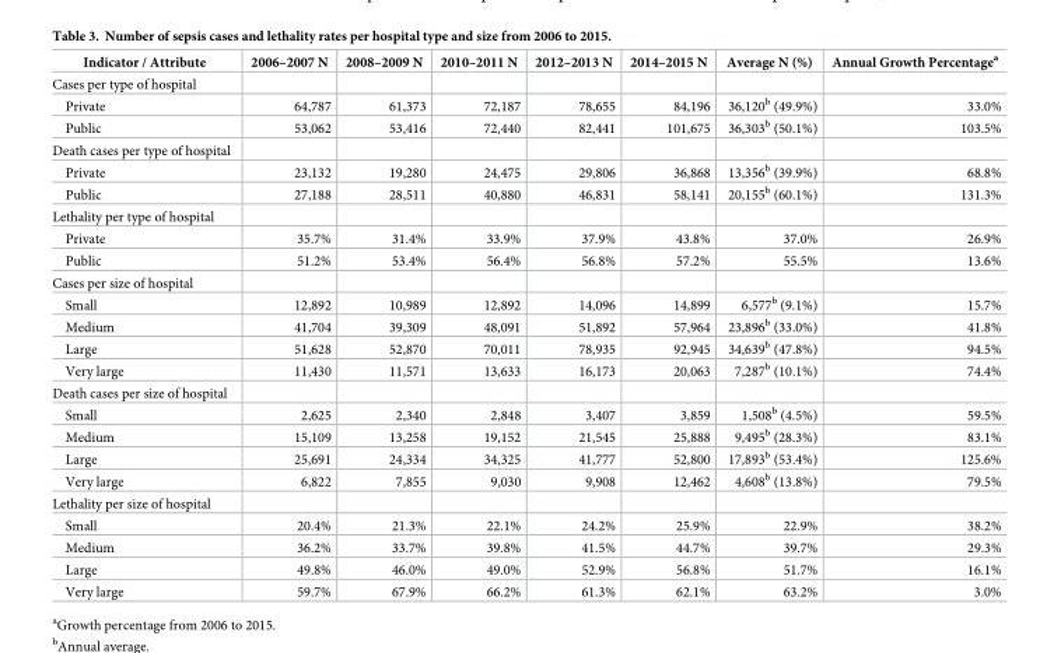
<table><thead><tr><td>Indicator / Attribute</td><td>2006–2007 N</td><td>2008–2009 N</td><td>2010–2011 N</td><td>2012–2013 N</td><td>2014–2015 N</td><td>Average N (%)</td><td>Annual Growth Percentage<sup>a</sup></td></tr></thead><tbody><tr><td colspan="8">Cases per type of hospital</td></tr><tr><td>Private</td><td>64,787</td><td>61,373</td><td>72,187</td><td>78,655</td><td>84,196</td><td>36,120<sup>b</sup> (49.9%)</td><td>33.0%</td></tr><tr><td>Public</td><td>53,062</td><td>53,416</td><td>72,440</td><td>82,441</td><td>101,675</td><td>36,303<sup>b</sup> (50.1%)</td><td>103.5%</td></tr><tr><td colspan="8">Death cases per type of hospital</td></tr><tr><td>Private</td><td>23,132</td><td>19,280</td><td>24,475</td><td>29,806</td><td>36,868</td><td>13,356<sup>b</sup> (39.9%)</td><td>68.8%</td></tr><tr><td>Public</td><td>27,188</td><td>28,511</td><td>40,880</td><td>46,831</td><td>58,141</td><td>20,155<sup>b</sup> (60.1%)</td><td>131.3%</td></tr><tr><td colspan="8">Lethality per type of hospital</td></tr><tr><td>Private</td><td>35.7%</td><td>31.4%</td><td>33.9%</td><td>37.9%</td><td>43.8%</td><td>37.0%</td><td>26.9%</td></tr><tr><td>Public</td><td>51.2%</td><td>53.4%</td><td>56.4%</td><td>56.8%</td><td>57.2%</td><td>55.5%</td><td>13.6%</td></tr><tr><td colspan="8">Cases per size of hospital</td></tr><tr><td>Small</td><td>12,892</td><td>10,989</td><td>12,892</td><td>14,096</td><td>14,899</td><td>6,577<sup>b</sup> (9.1%)</td><td>15.7%</td></tr><tr><td>Medium</td><td>41,704</td><td>39,309</td><td>48,091</td><td>51,892</td><td>57,964</td><td>23,896<sup>b</sup> (33.0%)</td><td>41.8%</td></tr><tr><td>Large</td><td>51,628</td><td>52,870</td><td>70,011</td><td>78,935</td><td>92,945</td><td>34,639<sup>b</sup> (47.8%)</td><td>94.5%</td></tr><tr><td>Very large</td><td>11,430</td><td>11,571</td><td>13,633</td><td>16,173</td><td>20,063</td><td>7,287<sup>b</sup> (10.1%)</td><td>74.4%</td></tr><tr><td colspan="8">Death cases per size of hospital</td></tr><tr><td>Small</td><td>2,625</td><td>2,340</td><td>2,848</td><td>3,407</td><td>3,859</td><td>1,508<sup>b</sup> (4.5%)</td><td>59.5%</td></tr><tr><td>Medium</td><td>15,109</td><td>13,258</td><td>19,152</td><td>21,545</td><td>25,888</td><td>9,495<sup>b</sup> (28.3%)</td><td>83.1%</td></tr><tr><td>Large</td><td>25,691</td><td>24,334</td><td>34,325</td><td>41,777</td><td>52,800</td><td>17,893<sup>b</sup> (53.4%)</td><td>125.6%</td></tr><tr><td>Very large</td><td>6,822</td><td>7,855</td><td>9,030</td><td>9,908</td><td>12,462</td><td>4,608<sup>b</sup> (13.8%)</td><td>79.5%</td></tr><tr><td colspan="8">Lethality per size of hospital</td></tr><tr><td>Small</td><td>20.4%</td><td>21.3%</td><td>22.1%</td><td>24.2%</td><td>25.9%</td><td>22.9%</td><td>38.2%</td></tr><tr><td>Medium</td><td>36.2%</td><td>33.7%</td><td>39.8%</td><td>41.5%</td><td>44.7%</td><td>39.7%</td><td>29.3%</td></tr><tr><td>Large</td><td>49.8%</td><td>46.0%</td><td>49.0%</td><td>52.9%</td><td>56.8%</td><td>51.7%</td><td>16.1%</td></tr><tr><td>Very large</td><td>59.7%</td><td>67.9%</td><td>66.2%</td><td>61.3%</td><td>62.1%</td><td>63.2%</td><td>3.0%</td></tr></tbody></table>